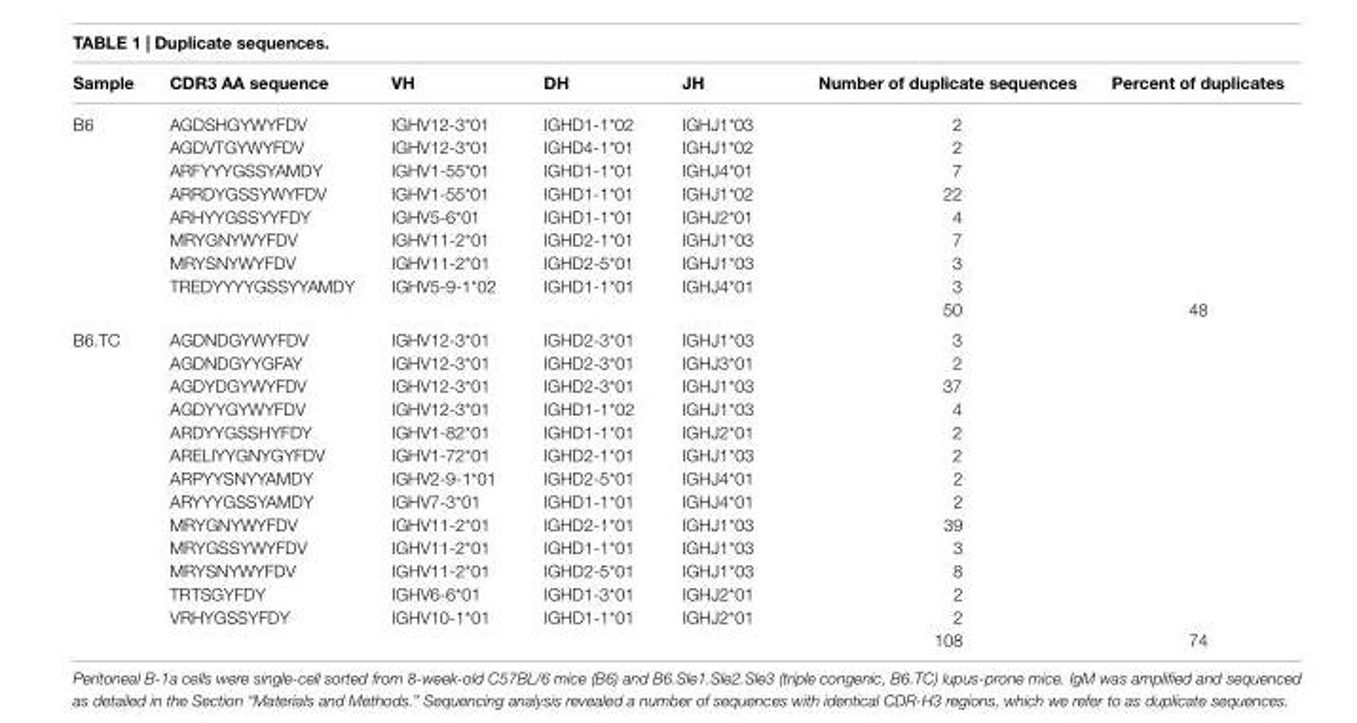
<table><thead><tr><td>sample</td><td>cDr3 aa sequence</td><td>Vh</td><td>Dh</td><td>Jh</td><td>number of duplicate sequences</td><td>Percent of duplicates</td></tr></thead><tbody><tr><td rowspan="9">B6</td><td>AGDSHGYWYFDV</td><td>IGHV12-3*01</td><td>IGHD1-1*02</td><td>IGHJ1*03</td><td>2</td><td></td></tr><tr><td>AGDVTGYWYFDV</td><td>IGHV12-3*01</td><td>IGHD4-1*01</td><td>IGHJ1*02</td><td>2</td><td></td></tr><tr><td>ARFYYYGSSYAMDY</td><td>IGHV1-55*01</td><td>IGHD1-1*01</td><td>IGHJ4*01</td><td>7</td><td></td></tr><tr><td>ARRDYGSSYWYFDV</td><td>IGHV1-55*01</td><td>IGHD1-1*01</td><td>IGHJ1*02</td><td>22</td><td></td></tr><tr><td>ARHYYGSSYYFDY</td><td>IGHV5-6*01</td><td>IGHD1-1*01</td><td>IGHJ2*01</td><td>4</td><td></td></tr><tr><td>MRYGNYWYFDV</td><td>IGHV11-2*01</td><td>IGHD2-1*01</td><td>IGHJ1*03</td><td>7</td><td></td></tr><tr><td>MRYSNYWYFDV</td><td>IGHV11-2*01</td><td>IGHD2-5*01</td><td>IGHJ1*03</td><td>3</td><td></td></tr><tr><td>TREDYYYYGSSYYAMDY</td><td>IGHV5-9-1*02</td><td>IGHD1-1*01</td><td>IGHJ4*01</td><td>3</td><td></td></tr><tr><td></td><td></td><td></td><td></td><td>50</td><td>48</td></tr><tr><td rowspan="14">B6.TC</td><td>AGDNDGYWYFDV</td><td>IGHV12-3*01</td><td>IGHD2-3*01</td><td>IGHJ1*03</td><td>3</td><td></td></tr><tr><td>AGDNDGYYGFAY</td><td>IGHV12-3*01</td><td>IGHD2-3*01</td><td>IGHJ3*01</td><td>2</td><td></td></tr><tr><td>AGDYDGYWYFDV</td><td>IGHV12-3*01</td><td>IGHD2-3*01</td><td>IGHJ1*03</td><td>37</td><td></td></tr><tr><td>AGDYYGYWYFDV</td><td>IGHV12-3*01</td><td>IGHD1-1*02</td><td>IGHJ1*03</td><td>4</td><td></td></tr><tr><td>ARDYYGSSHYFDY</td><td>IGHV1-82*01</td><td>IGHD1-1*01</td><td>IGHJ2*01</td><td>2</td><td></td></tr><tr><td>ARELIYYGNYGYFDV</td><td>IGHV1-72*01</td><td>IGHD2-1*01</td><td>IGHJ1*03</td><td>2</td><td></td></tr><tr><td>ARPYYSNYYAMDY</td><td>IGHV2-9-1*01</td><td>IGHD2-5*01</td><td>IGHJ4*01</td><td>2</td><td></td></tr><tr><td>ARYYYGSSYAMDY</td><td>IGHV7-3*01</td><td>IGHD1-1*01</td><td>IGHJ4*01</td><td>2</td><td></td></tr><tr><td>MRYGNYWYFDV</td><td>IGHV11-2*01</td><td>IGHD2-1*01</td><td>IGHJ1*03</td><td>39</td><td></td></tr><tr><td>MRYGSSYWYFDV</td><td>IGHV11-2*01</td><td>IGHD1-1*01</td><td>IGHJ1*03</td><td>3</td><td></td></tr><tr><td>MRYSNYWYFDV</td><td>IGHV11-2*01</td><td>IGHD2-5*01</td><td>IGHJ1*03</td><td>8</td><td></td></tr><tr><td>TRTSGYFDY</td><td>IGHV6-6*01</td><td>IGHD1-3*01</td><td>IGHJ2*01</td><td>2</td><td></td></tr><tr><td>VRHYGSSYFDY</td><td>IGHV10-1*01</td><td>IGHD1-1*01</td><td>IGHJ2*01</td><td>2</td><td></td></tr><tr><td></td><td></td><td></td><td></td><td>108</td><td>74</td></tr></tbody></table>